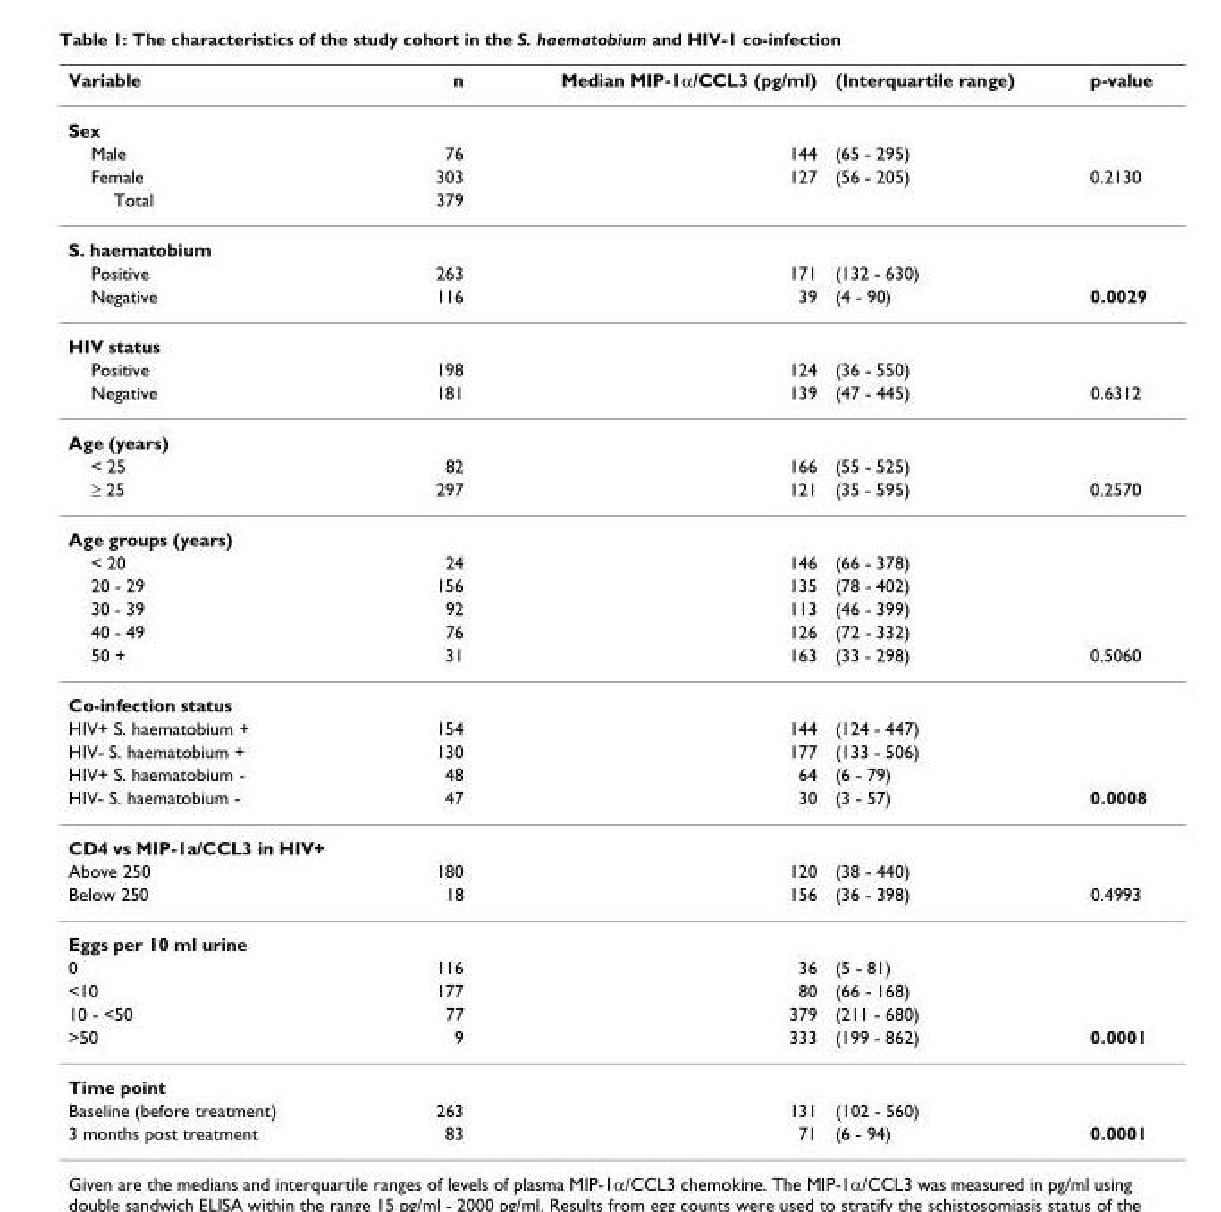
<table><thead><tr><td>Variable</td><td>n</td><td>Median MIP-1α/CCL3 (pg/ml)</td><td>(Interquartile range)</td><td>p-value</td></tr></thead><tbody><tr><td colspan="5">Sex</td></tr><tr><td>Male</td><td>76</td><td>144</td><td>(65 - 295)</td><td></td></tr><tr><td>Female</td><td>303</td><td>127</td><td>(56 - 205)</td><td>0.2130</td></tr><tr><td>Total</td><td>379</td><td></td><td></td><td></td></tr><tr><td colspan="5">S. haematobium</td></tr><tr><td>Positive</td><td>263</td><td>171</td><td>(132 - 630)</td><td></td></tr><tr><td>Negative</td><td>116</td><td>39</td><td>(4 - 90)</td><td>0.0029</td></tr><tr><td colspan="5">HIV status</td></tr><tr><td>Positive</td><td>198</td><td>124</td><td>(36 - 550)</td><td></td></tr><tr><td>Negative</td><td>181</td><td>139</td><td>(47 - 445)</td><td>0.6312</td></tr><tr><td colspan="5">Age (years)</td></tr><tr><td>&lt; 25</td><td>82</td><td>166</td><td>(55 - 525)</td><td></td></tr><tr><td>≥ 25</td><td>297</td><td>121</td><td>(35 - 595)</td><td>0.2570</td></tr><tr><td colspan="5">Age groups (years)</td></tr><tr><td>&lt; 20</td><td>24</td><td>146</td><td>(66 - 378)</td><td></td></tr><tr><td>20 - 29</td><td>156</td><td>135</td><td>(78 - 402)</td><td></td></tr><tr><td>30 - 39</td><td>92</td><td>113</td><td>(46 - 399)</td><td></td></tr><tr><td>40 - 49</td><td>76</td><td>126</td><td>(72 - 332)</td><td></td></tr><tr><td>50 +</td><td>31</td><td>163</td><td>(33 - 298)</td><td>0.5060</td></tr><tr><td colspan="5">Co-infection status</td></tr><tr><td>HIV+ S. haematobium +</td><td>154</td><td>144</td><td>(124 - 447)</td><td></td></tr><tr><td>HIV- S. haematobium +</td><td>130</td><td>177</td><td>(133 - 506)</td><td></td></tr><tr><td>HIV+ S. haematobium -</td><td>48</td><td>64</td><td>(6 - 79)</td><td></td></tr><tr><td>HIV- S. haematobium -</td><td>47</td><td>30</td><td>(3 - 57)</td><td>0.0008</td></tr><tr><td colspan="5">CD4 vs MIP-1a/CCL3 in HIV+</td></tr><tr><td>Above 250</td><td>180</td><td>120</td><td>(38 - 440)</td><td></td></tr><tr><td>Below 250</td><td>18</td><td>156</td><td>(36 - 398)</td><td>0.4993</td></tr><tr><td colspan="5">Eggs per 10 ml urine</td></tr><tr><td>0</td><td>116</td><td>36</td><td>(5 - 81)</td><td></td></tr><tr><td>&lt;10</td><td>177</td><td>80</td><td>(66 - 168)</td><td></td></tr><tr><td>10 - &lt;50</td><td>77</td><td>379</td><td>(211 - 680)</td><td></td></tr><tr><td>&gt;50</td><td>9</td><td>333</td><td>(199 - 862)</td><td>0.0001</td></tr><tr><td colspan="5">Time point</td></tr><tr><td>Baseline (before treatment)</td><td>263</td><td>131</td><td>(102 - 560)</td><td></td></tr><tr><td>3 months post treatment</td><td>83</td><td>71</td><td>(6 - 94)</td><td>0.0001</td></tr></tbody></table>